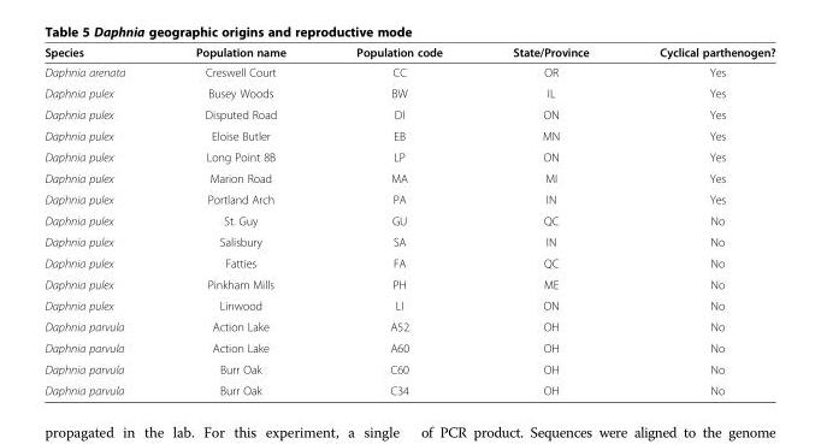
<table><thead><tr><td>Species</td><td>Population name</td><td>Population code</td><td>State/Province</td><td>Cyclical parthenogen?</td></tr></thead><tbody><tr><td>Daphnia arenata</td><td>Creswell Court</td><td>CC</td><td>OR</td><td>Yes</td></tr><tr><td>Daphnia pulex</td><td>Busey Woods</td><td>BW</td><td>IL</td><td>Yes</td></tr><tr><td>Daphnia pulex</td><td>Disputed Road</td><td>DI</td><td>ON</td><td>Yes</td></tr><tr><td>Daphnia pulex</td><td>Eloise Butler</td><td>EB</td><td>MN</td><td>Yes</td></tr><tr><td>Daphnia pulex</td><td>Long Point 8B</td><td>LP</td><td>ON</td><td>Yes</td></tr><tr><td>Daphnia pulex</td><td>Marion Road</td><td>MA</td><td>MI</td><td>Yes</td></tr><tr><td>Daphnia pulex</td><td>Portland Arch</td><td>PA</td><td>IN</td><td>Yes</td></tr><tr><td>Daphnia pulex</td><td>St. Guy</td><td>GU</td><td>QC</td><td>No</td></tr><tr><td>Daphnia pulex</td><td>Salisbury</td><td>SA</td><td>IN</td><td>No</td></tr><tr><td>Daphnia pulex</td><td>Fatties</td><td>FA</td><td>QC</td><td>No</td></tr><tr><td>Daphnia pulex</td><td>Pinkham Mills</td><td>PH</td><td>ME</td><td>No</td></tr><tr><td>Daphnia pulex</td><td>Linwood</td><td>LI</td><td>ON</td><td>No</td></tr><tr><td>Daphnia parvula</td><td>Action Lake</td><td>A52</td><td>OH</td><td>No</td></tr><tr><td>Daphnia parvula</td><td>Action Lake</td><td>A60</td><td>OH</td><td>No</td></tr><tr><td>Daphnia parvula</td><td>Burr Oak</td><td>C60</td><td>OH</td><td>No</td></tr><tr><td>Daphnia parvula</td><td>Burr Oak</td><td>C34</td><td>OH</td><td>No</td></tr></tbody></table>